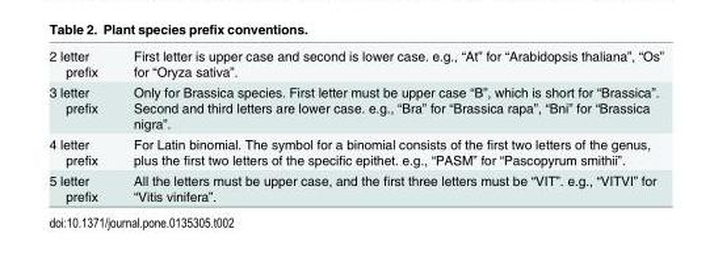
<table><tbody><tr><td>2 letter prefix</td><td>First letter is upper case and second is lower case. e.g., “At” for “Arabidopsis thaliana”, “Os” for “Oryza sativa”.</td></tr><tr><td>3 letter prefix</td><td>Only for Brassica species. First letter must be upper case “B”, which is short for “Brassica”. Second and third letters are lower case. e.g., “Bra” for “Brassica rapa”, “Bni” for “Brassica nigra”.</td></tr><tr><td>4 letter prefix</td><td>For Latin binomial. The symbol for a binomial consists of the first two letters of the genus, plus the first two letters of the specific epithet. e.g., “PASM” for “Pascopyrum smithii”.</td></tr><tr><td>5 letter prefix</td><td>All the letters must be upper case, and the first three letters must be “VIT”. e.g., “VITVI” for “Vitis vinifera”.</td></tr></tbody></table>